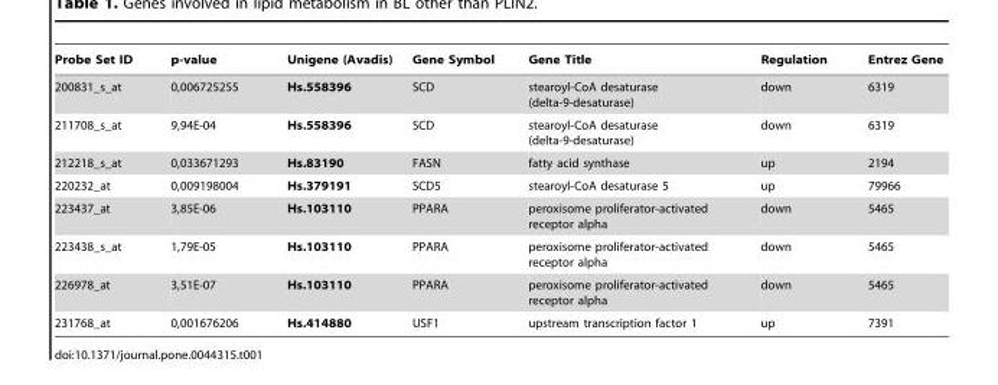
<table><thead><tr><td>Probe Set ID</td><td>p-value</td><td>Unigene (Avadis)</td><td>Gene Symbol</td><td>Gene Title</td><td>Regulation</td><td>Entrez Gene</td></tr></thead><tbody><tr><td>200831_s_at</td><td>0,006725255</td><td>Hs.558396</td><td>SCD</td><td>stearoyl-CoA desaturase (delta-9-desaturase)</td><td>down</td><td>6319</td></tr><tr><td>211708_s_at</td><td>9,94E-04</td><td>Hs.558396</td><td>SCD</td><td>stearoyl-CoA desaturase (delta-9-desaturase)</td><td>down</td><td>6319</td></tr><tr><td>212218_s_at</td><td>0,033671293</td><td>Hs.83190</td><td>FASN</td><td>fatty acid synthase</td><td>up</td><td>2194</td></tr><tr><td>220232_at</td><td>0,009198004</td><td>Hs.379191</td><td>SCD5</td><td>stearoyl-CoA desaturase 5</td><td>up</td><td>79966</td></tr><tr><td>223437_at</td><td>3,85E-06</td><td>Hs.103110</td><td>PPARA</td><td>peroxisome proliferator-activated receptor alpha</td><td>down</td><td>5465</td></tr><tr><td>223438_s_at</td><td>1,79E-05</td><td>Hs.103110</td><td>PPARA</td><td>peroxisome proliferator-activated receptor alpha</td><td>down</td><td>5465</td></tr><tr><td>226978_at</td><td>3,51E-07</td><td>Hs.103110</td><td>PPARA</td><td>peroxisome proliferator-activated receptor alpha</td><td>down</td><td>5465</td></tr><tr><td>231768_at</td><td>0,001676206</td><td>Hs.414880</td><td>USF1</td><td>upstream transcription factor 1</td><td>up</td><td>7391</td></tr></tbody></table>